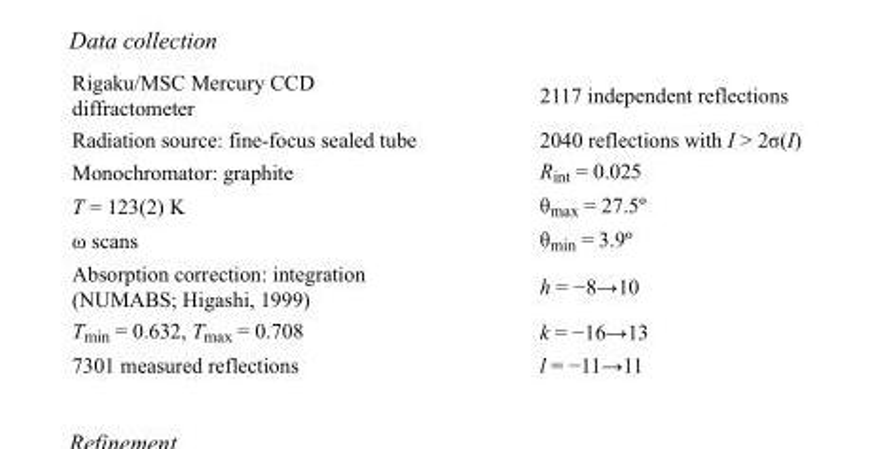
<table><tbody><tr><td>Rigaku/MSC Mercury CCD diffractometer</td><td>2117 independent reflections</td></tr><tr><td>Radiation source: fine-focus sealed tube</td><td>2040 reflections with I &gt; 2σ(I)</td></tr><tr><td>Monochromator: graphite</td><td>R<sub>int</sub> = 0.025</td></tr><tr><td>T = 123(2) K</td><td>θ<sub>max</sub> = 27.5º</td></tr><tr><td>ω scans</td><td>θ<sub>min</sub> = 3.9º</td></tr><tr><td>Absorption correction: integration (NUMABS; Higashi, 1999)</td><td>h = −8→10</td></tr><tr><td>T<sub>min</sub> = 0.632, T<sub>max</sub> = 0.708</td><td>k = −16→13</td></tr><tr><td>7301 measured reflections</td><td>l = −11→11</td></tr></tbody></table>